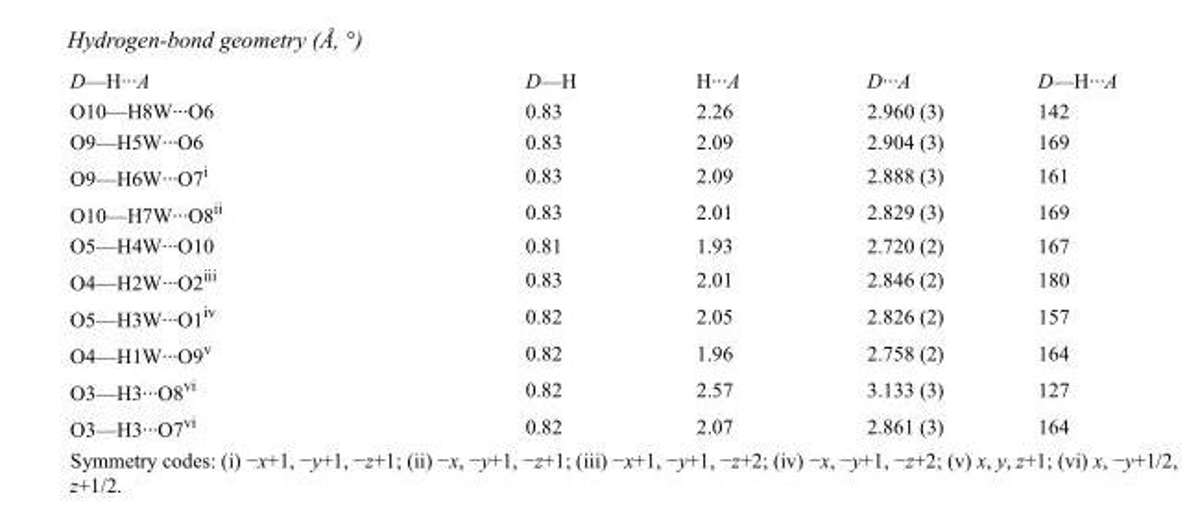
<table><tbody><tr><td>D—H···A</td><td>D—H</td><td>H···A</td><td>D···A</td><td>D—H···A</td></tr><tr><td>O10—H8W···O6</td><td>0.83</td><td>2.26</td><td>2.960 (3)</td><td>142</td></tr><tr><td>O9—H5W···O6</td><td>0.83</td><td>2.09</td><td>2.904 (3)</td><td>169</td></tr><tr><td>O9—H6W···O7<sup>i</sup></td><td>0.83</td><td>2.09</td><td>2.888 (3)</td><td>161</td></tr><tr><td>O10—H7W···O8<sup>ii</sup></td><td>0.83</td><td>2.01</td><td>2.829 (3)</td><td>169</td></tr><tr><td>O5—H4W···O10</td><td>0.81</td><td>1.93</td><td>2.720 (2)</td><td>167</td></tr><tr><td>O4—H2W···O2<sup>iii</sup></td><td>0.83</td><td>2.01</td><td>2.846 (2)</td><td>180</td></tr><tr><td>O5—H3W···O1<sup>iv</sup></td><td>0.82</td><td>2.05</td><td>2.826 (2)</td><td>157</td></tr><tr><td>O4—H1W···O9<sup>v</sup></td><td>0.82</td><td>1.96</td><td>2.758 (2)</td><td>164</td></tr><tr><td>O3—H3···O8<sup>vi</sup></td><td>0.82</td><td>2.57</td><td>3.133 (3)</td><td>127</td></tr><tr><td>O3—H3···O7<sup>vi</sup></td><td>0.82</td><td>2.07</td><td>2.861 (3)</td><td>164</td></tr></tbody></table>